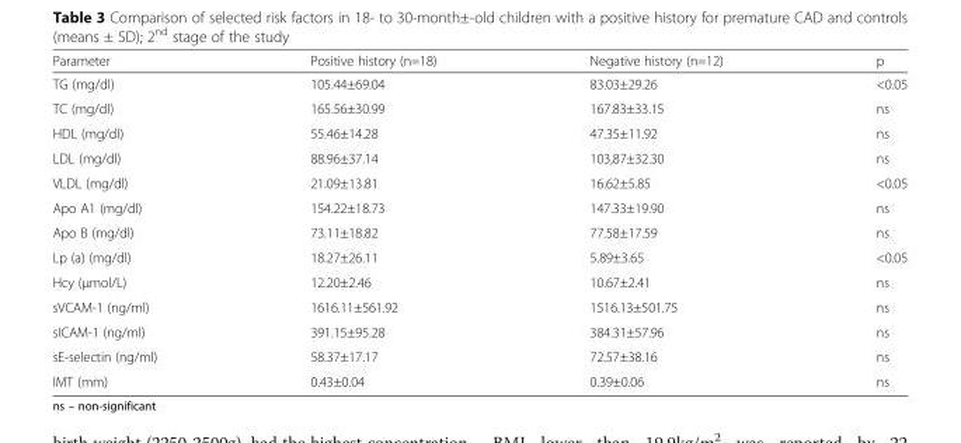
<table><thead><tr><td>Parameter</td><td>Positive history (n=18)</td><td>Negative history (n=12)</td><td>p</td></tr></thead><tbody><tr><td>TG (mg/dl)</td><td>105.44±69.04</td><td>83.03±29.26</td><td>&lt;0.05</td></tr><tr><td>TC (mg/dl)</td><td>165.56±30.99</td><td>167.83±33.15</td><td>ns</td></tr><tr><td>HDL (mg/dl)</td><td>55.46±14.28</td><td>47.35±11.92</td><td>ns</td></tr><tr><td>LDL (mg/dl)</td><td>88.96±37.14</td><td>103,87±32.30</td><td>ns</td></tr><tr><td>VLDL (mg/dl)</td><td>21.09±13.81</td><td>16.62±5.85</td><td>&lt;0.05</td></tr><tr><td>Apo A1 (mg/dl)</td><td>154.22±18.73</td><td>147.33±19.90</td><td>ns</td></tr><tr><td>Apo B (mg/dl)</td><td>73.11±18.82</td><td>77.58±17.59</td><td>ns</td></tr><tr><td>Lp (a) (mg/dl)</td><td>18.27±26.11</td><td>5.89±3.65</td><td>&lt;0.05</td></tr><tr><td>Hcy (μmol/L)</td><td>12.20±2.46</td><td>10.67±2.41</td><td>ns</td></tr><tr><td>sVCAM-1 (ng/ml)</td><td>1616.11±561.92</td><td>1516.13±501.75</td><td>ns</td></tr><tr><td>sICAM-1 (ng/ml)</td><td>391.15±95.28</td><td>384.31±57.96</td><td>ns</td></tr><tr><td>sE-selectin (ng/ml)</td><td>58.37±17.17</td><td>72.57±38.16</td><td>ns</td></tr><tr><td>IMT (mm)</td><td>0.43±0.04</td><td>0.39±0.06</td><td>ns</td></tr></tbody></table>